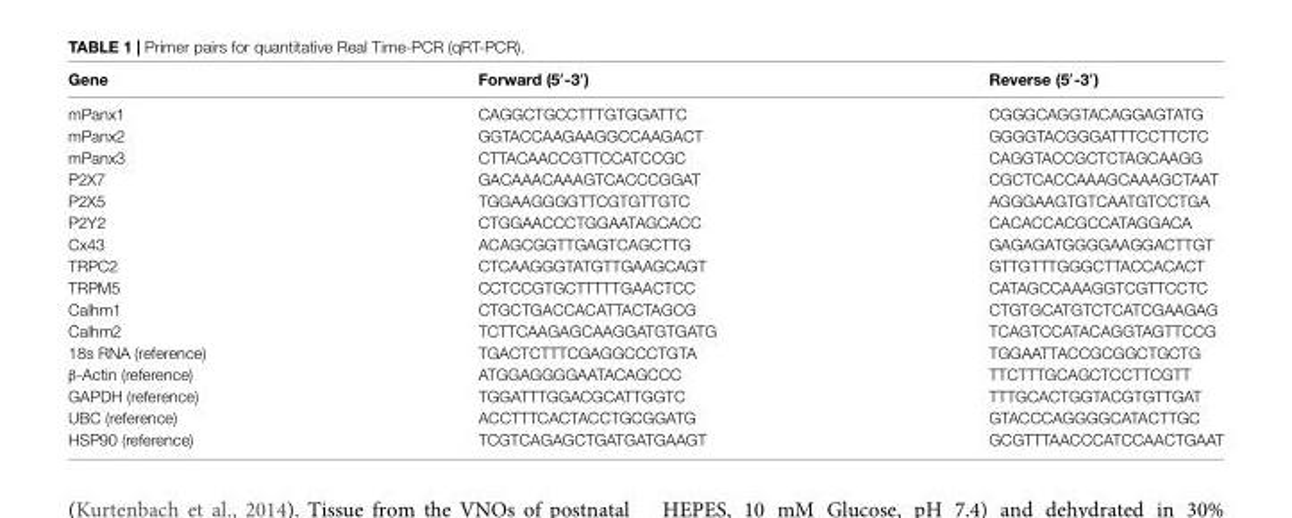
<table><thead><tr><td>Gene</td><td>Forward (5′-3′)</td><td>Reverse (5′-3′)</td></tr></thead><tbody><tr><td>mPanx1</td><td>CAGGCTGCCTTTGTGGATTC</td><td>CGGGCAGGTACAGGAGTATG</td></tr><tr><td>mPanx2</td><td>GGTACCAAGAAGGCCAAGACT</td><td>GGGGTACGGGATTTCCTTCTC</td></tr><tr><td>mPanx3</td><td>CTTACAACCGTTCCATCCGC</td><td>CAGGTACCGCTCTAGCAAGG</td></tr><tr><td>P2X7</td><td>GACAAACAAAGTCACCCGGAT</td><td>CGCTCACCAAAGCAAAGCTAAT</td></tr><tr><td>P2X5</td><td>TGGAAGGGGTTCGTGTTGTC</td><td>AGGGAAGTGTCAATGTCCTGA</td></tr><tr><td>P2Y2</td><td>CTGGAACCCTGGAATAGCACC</td><td>CACACCACGCCATAGGACA</td></tr><tr><td>Cx43</td><td>ACAGCGGTTGAGTCAGCTTG</td><td>GAGAGATGGGGAAGGACTTGT</td></tr><tr><td>TRPC2</td><td>CTCAAGGGTATGTTGAAGCAGT</td><td>GTTGTTTGGGCTTACCACACT</td></tr><tr><td>TRPM5</td><td>CCTCCGTGCTTTTTGAACTCC</td><td>CATAGCCAAAGGTCGTTCCTC</td></tr><tr><td>Calhm1</td><td>CTGCTGACCACATTACTAGCG</td><td>CTGTGCATGTCTCATCGAAGAG</td></tr><tr><td>Calhm2</td><td>TCTTCAAGAGCAAGGATGTGATG</td><td>TCAGTCCATACAGGTAGTTCCG</td></tr><tr><td>18s RNA (reference)</td><td>TGACTCTTTCGAGGCCCTGTA</td><td>TGGAATTACCGCGGCTGCTG</td></tr><tr><td>β-Actin (reference)</td><td>ATGGAGGGGAATACAGCCC</td><td>TTCTTTGCAGCTCCTTCGTT</td></tr><tr><td>GAPDH (reference)</td><td>TGGATTTGGACGCATTGGTC</td><td>TTTGCACTGGTACGTGTTGAT</td></tr><tr><td>UBC (reference)</td><td>ACCTTTCACTACCTGCGGATG</td><td>GTACCCAGGGGCATACTTGC</td></tr><tr><td>HSP90 (reference)</td><td>TCGTCAGAGCTGATGATGAAGT</td><td>GCGTTTAACCCATCCAACTGAAT</td></tr></tbody></table>